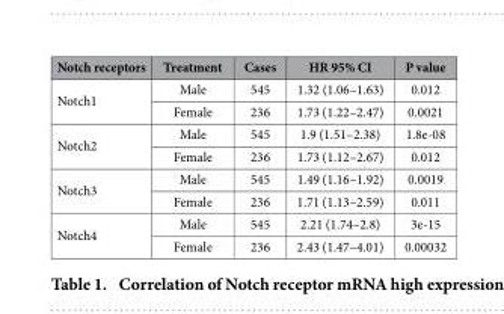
<table><thead><tr><td>Notch receptors</td><td>Treatment</td><td>Cases</td><td>HR 95% CI</td><td>P value</td></tr></thead><tbody><tr><td rowspan="2">Notch1</td><td>Male</td><td>545</td><td>1.32 (1.06–1.63)</td><td>0.012</td></tr><tr><td>Female</td><td>236</td><td>1.73 (1.22–2.47)</td><td>0.0021</td></tr><tr><td rowspan="2">Notch2</td><td>Male</td><td>545</td><td>1.9 (1.51–2.38)</td><td>1.8e-08</td></tr><tr><td>Female</td><td>236</td><td>1.73 (1.12–2.67)</td><td>0.012</td></tr><tr><td rowspan="2">Notch3</td><td>Male</td><td>545</td><td>1.49 (1.16–1.92)</td><td>0.0019</td></tr><tr><td>Female</td><td>236</td><td>1.71 (1.13–2.59)</td><td>0.011</td></tr><tr><td rowspan="2">Notch4</td><td>Male</td><td>545</td><td>2.21 (1.74–2.8)</td><td>3e-15</td></tr><tr><td>Female</td><td>236</td><td>2.43 (1.47–4.01)</td><td>0.00032</td></tr></tbody></table>